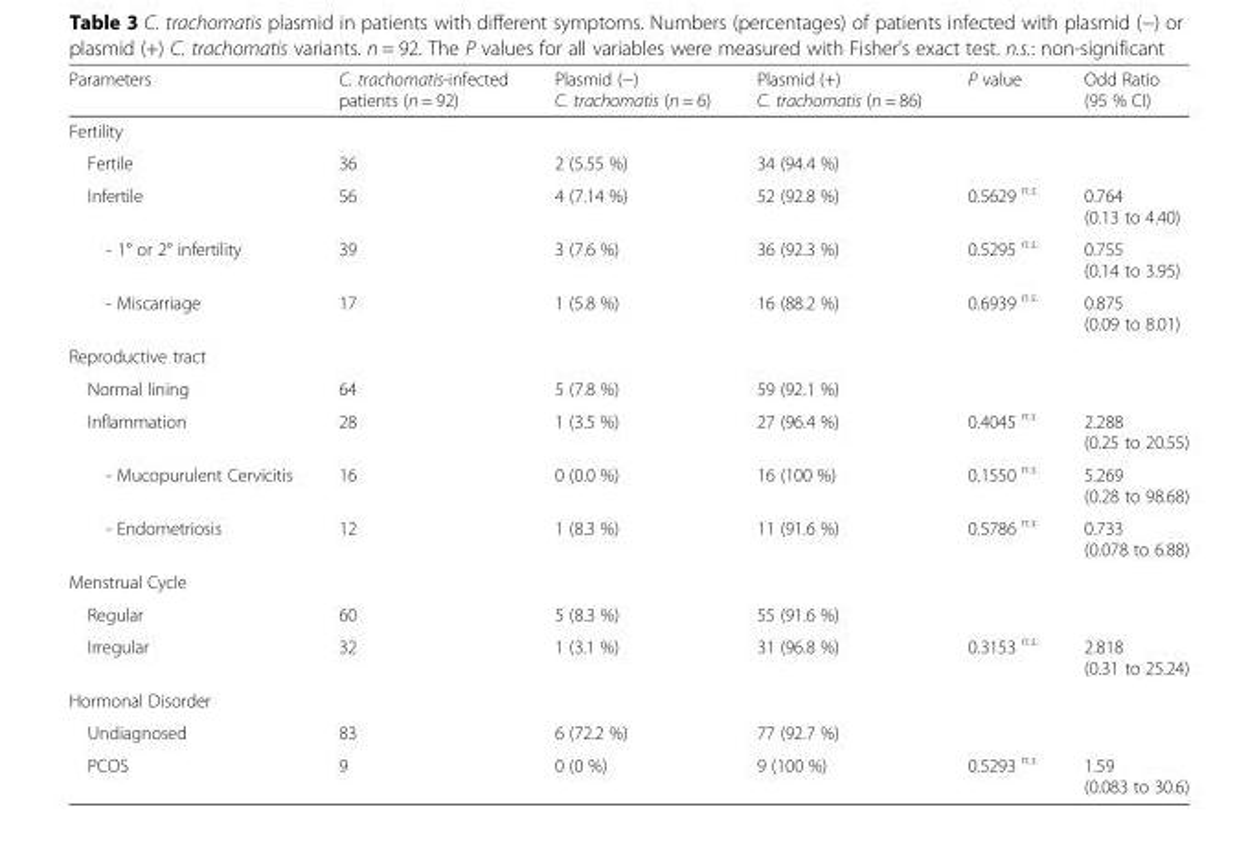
<table><thead><tr><td>Parameters</td><td>C. trachomatis-infected patients (n = 92)</td><td>Plasmid (−) C. trachomatis (n = 6)</td><td>Plasmid (+) C. trachomatis (n = 86)</td><td>P value</td><td>Odd Ratio (95 % CI)</td></tr></thead><tbody><tr><td colspan="6">Fertility</td></tr><tr><td>Fertile</td><td>36</td><td>2 (5.55 %)</td><td>34 (94.4 %)</td><td></td><td></td></tr><tr><td>Infertile</td><td>56</td><td>4 (7.14 %)</td><td>52 (92.8 %)</td><td>0.5629 <sup>n.s.</sup></td><td>0.764 (0.13 to 4.40)</td></tr><tr><td>- 1° or 2° infertility</td><td>39</td><td>3 (7.6 %)</td><td>36 (92.3 %)</td><td>0.5295 <sup>n.s.</sup></td><td>0.755 (0.14 to 3.95)</td></tr><tr><td>- Miscarriage</td><td>17</td><td>1 (5.8 %)</td><td>16 (88.2 %)</td><td>0.6939 <sup>n.s.</sup></td><td>0.875 (0.09 to 8.01)</td></tr><tr><td colspan="6">Reproductive tract</td></tr><tr><td>Normal lining</td><td>64</td><td>5 (7.8 %)</td><td>59 (92.1 %)</td><td></td><td></td></tr><tr><td>Inflammation</td><td>28</td><td>1 (3.5 %)</td><td>27 (96.4 %)</td><td>0.4045 <sup>n.s.</sup></td><td>2.288 (0.25 to 20.55)</td></tr><tr><td>- Mucopurulent Cervicitis</td><td>16</td><td>0 (0.0 %)</td><td>16 (100 %)</td><td>0.1550 <sup>n.s.</sup></td><td>5.269 (0.28 to 98.68)</td></tr><tr><td>- Endometriosis</td><td>12</td><td>1 (8.3 %)</td><td>11 (91.6 %)</td><td>0.5786 <sup>n.s.</sup></td><td>0.733 (0.078 to 6.88)</td></tr><tr><td colspan="6">Menstrual Cycle</td></tr><tr><td>Regular</td><td>60</td><td>5 (8.3 %)</td><td>55 (91.6 %)</td><td></td><td></td></tr><tr><td>Irregular</td><td>32</td><td>1 (3.1 %)</td><td>31 (96.8 %)</td><td>0.3153 <sup>n.s.</sup></td><td>2.818 (0.31 to 25.24)</td></tr><tr><td colspan="6">Hormonal Disorder</td></tr><tr><td>Undiagnosed</td><td>83</td><td>6 (72.2 %)</td><td>77 (92.7 %)</td><td></td><td></td></tr><tr><td>PCOS</td><td>9</td><td>0 (0 %)</td><td>9 (100 %)</td><td>0.5293 <sup>n.s.</sup></td><td>1.59 (0.083 to 30.6)</td></tr></tbody></table>